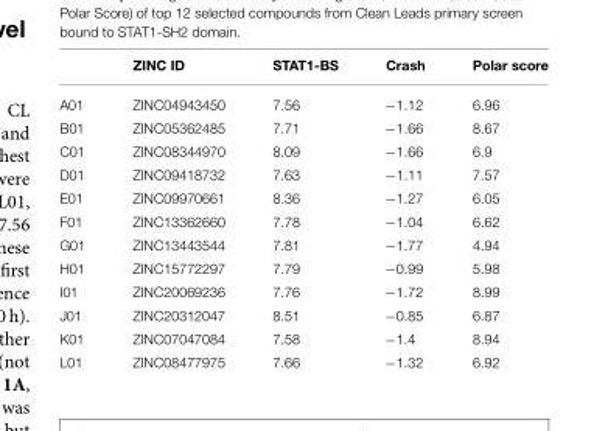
<table><thead><tr><td></td><td>ZINC ID</td><td>STAT1-BS</td><td>Crash</td><td>Polar score</td></tr></thead><tbody><tr><td>A01</td><td>ZINC04943450</td><td>7.56</td><td>−1.12</td><td>6.96</td></tr><tr><td>B01</td><td>ZINC05362485</td><td>7.71</td><td>−1.66</td><td>8.67</td></tr><tr><td>C01</td><td>ZINC08344970</td><td>8.09</td><td>−1.66</td><td>6.9</td></tr><tr><td>D01</td><td>ZINC09418732</td><td>7.63</td><td>−1.11</td><td>7.57</td></tr><tr><td>E01</td><td>ZINC09970661</td><td>8.36</td><td>−1.27</td><td>6.05</td></tr><tr><td>F01</td><td>ZINC13362660</td><td>7.78</td><td>−1.04</td><td>6.62</td></tr><tr><td>G01</td><td>ZINC13443544</td><td>7.81</td><td>−1.77</td><td>4.94</td></tr><tr><td>H01</td><td>ZINC15772297</td><td>7.79</td><td>−0.99</td><td>5.98</td></tr><tr><td>I01</td><td>ZINC20069236</td><td>7.76</td><td>−1.72</td><td>8.99</td></tr><tr><td>J01</td><td>ZINC20312047</td><td>8.51</td><td>−0.85</td><td>6.87</td></tr><tr><td>K01</td><td>ZINC07047084</td><td>7.58</td><td>−1.4</td><td>8.94</td></tr><tr><td>L01</td><td>ZINC08477975</td><td>7.66</td><td>−1.32</td><td>6.92</td></tr></tbody></table>